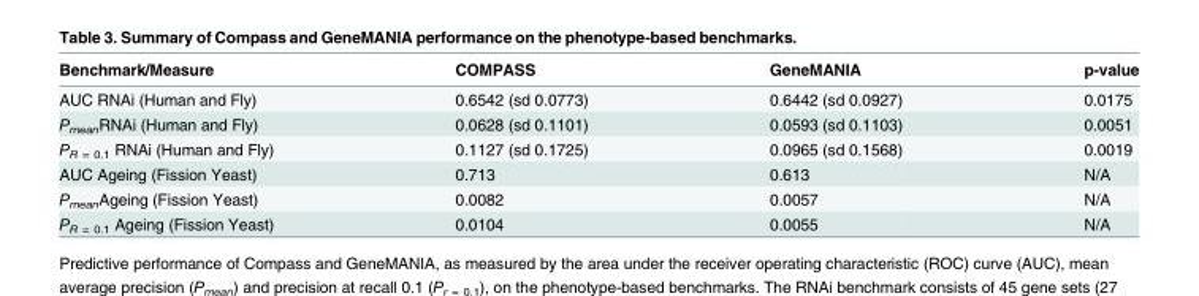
<table><thead><tr><td>Benchmark/Measure</td><td>COMPASS</td><td>GeneMANIA</td><td>p-value</td></tr></thead><tbody><tr><td>AUC RNAi (Human and Fly)</td><td>0.6542 (sd 0.0773)</td><td>0.6442 (sd 0.0927)</td><td>0.0175</td></tr><tr><td>P<sub>mean</sub>RNAi (Human and Fly)</td><td>0.0628 (sd 0.1101)</td><td>0.0593 (sd 0.1103)</td><td>0.0051</td></tr><tr><td>P<sub>R = 0.1</sub> RNAi (Human and Fly)</td><td>0.1127 (sd 0.1725)</td><td>0.0965 (sd 0.1568)</td><td>0.0019</td></tr><tr><td>AUC Ageing (Fission Yeast)</td><td>0.713</td><td>0.613</td><td>N/A</td></tr><tr><td>P<sub>mean</sub>Ageing (Fission Yeast)</td><td>0.0082</td><td>0.0057</td><td>N/A</td></tr><tr><td>P<sub>R = 0.1</sub> Ageing (Fission Yeast)</td><td>0.0104</td><td>0.0055</td><td>N/A</td></tr></tbody></table>